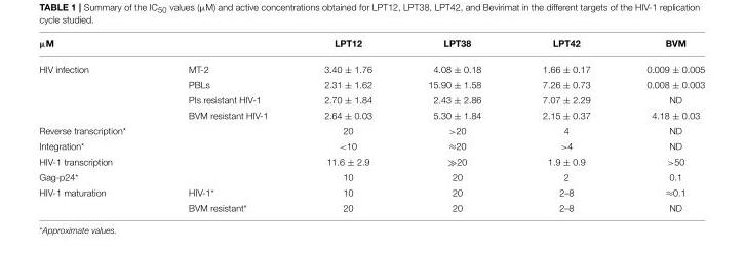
<table><thead><tr><td>µM</td><td></td><td>LPT12</td><td>LPT38</td><td>LPT42</td><td>BVM</td></tr></thead><tbody><tr><td rowspan="4">HIV infection</td><td>MT-2</td><td>3.40 ± 1.76</td><td>4.08 ± 0.18</td><td>1.66 ± 0.17</td><td>0.009 ± 0.005</td></tr><tr><td>PBLs</td><td>2.31 ± 1.62</td><td>15.90 ± 1.58</td><td>7.26 ± 0.73</td><td>0.008 ± 0.003</td></tr><tr><td>PIs resistant HIV-1</td><td>2.70 ± 1.84</td><td>2.43 ± 2.86</td><td>7.07 ± 2.29</td><td>ND</td></tr><tr><td>BVM resistant HIV-1</td><td>2.64 ± 0.03</td><td>5.30 ± 1.84</td><td>2.15 ± 0.37</td><td>4.18 ± 0.03</td></tr><tr><td colspan="2">Reverse transcription*</td><td>20</td><td>&gt;20</td><td>4</td><td>ND</td></tr><tr><td colspan="2">Integration*</td><td>&lt;10</td><td>≈20</td><td>&gt;4</td><td>ND</td></tr><tr><td colspan="2">HIV-1 transcription</td><td>11.6 ± 2.9</td><td>≫20</td><td>1.9 ± 0.9</td><td>&gt;50</td></tr><tr><td colspan="2">Gag-p24*</td><td>10</td><td>20</td><td>2</td><td>0.1</td></tr><tr><td rowspan="2">HIV-1 maturation</td><td>HIV-1*</td><td>10</td><td>20</td><td>2–8</td><td>≈0.1</td></tr><tr><td>BVM resistant*</td><td>20</td><td>20</td><td>2–8</td><td>ND</td></tr></tbody></table>